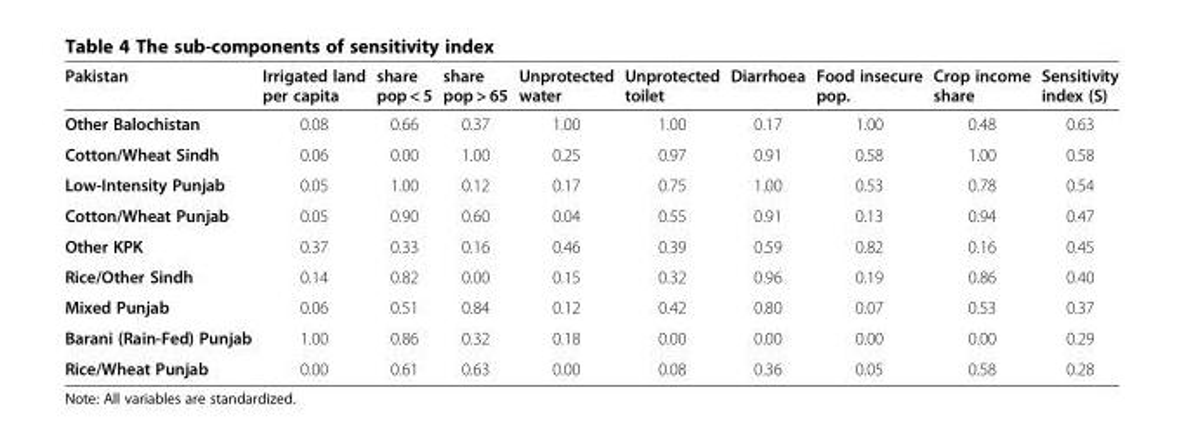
<table><thead><tr><td>Pakistan</td><td>Irrigated land per capita</td><td>share pop &lt; 5</td><td>share pop &gt; 65</td><td>Unprotected water</td><td>Unprotected toilet</td><td>Diarrhoea</td><td>Food insecure pop.</td><td>Crop income share</td><td>Sensitivity index (S)</td></tr></thead><tbody><tr><td>Other Balochistan</td><td>0.08</td><td>0.66</td><td>0.37</td><td>1.00</td><td>1.00</td><td>0.17</td><td>1.00</td><td>0.48</td><td>0.63</td></tr><tr><td>Cotton/Wheat Sindh</td><td>0.06</td><td>0.00</td><td>1.00</td><td>0.25</td><td>0.97</td><td>0.91</td><td>0.58</td><td>1.00</td><td>0.58</td></tr><tr><td>Low-Intensity Punjab</td><td>0.05</td><td>1.00</td><td>0.12</td><td>0.17</td><td>0.75</td><td>1.00</td><td>0.53</td><td>0.78</td><td>0.54</td></tr><tr><td>Cotton/Wheat Punjab</td><td>0.05</td><td>0.90</td><td>0.60</td><td>0.04</td><td>0.55</td><td>0.91</td><td>0.13</td><td>0.94</td><td>0.47</td></tr><tr><td>Other KPK</td><td>0.37</td><td>0.33</td><td>0.16</td><td>0.46</td><td>0.39</td><td>0.59</td><td>0.82</td><td>0.16</td><td>0.45</td></tr><tr><td>Rice/Other Sindh</td><td>0.14</td><td>0.82</td><td>0.00</td><td>0.15</td><td>0.32</td><td>0.96</td><td>0.19</td><td>0.86</td><td>0.40</td></tr><tr><td>Mixed Punjab</td><td>0.06</td><td>0.51</td><td>0.84</td><td>0.12</td><td>0.42</td><td>0.80</td><td>0.07</td><td>0.53</td><td>0.37</td></tr><tr><td>Barani (Rain-Fed) Punjab</td><td>1.00</td><td>0.86</td><td>0.32</td><td>0.18</td><td>0.00</td><td>0.00</td><td>0.00</td><td>0.00</td><td>0.29</td></tr><tr><td>Rice/Wheat Punjab</td><td>0.00</td><td>0.61</td><td>0.63</td><td>0.00</td><td>0.08</td><td>0.36</td><td>0.05</td><td>0.58</td><td>0.28</td></tr></tbody></table>